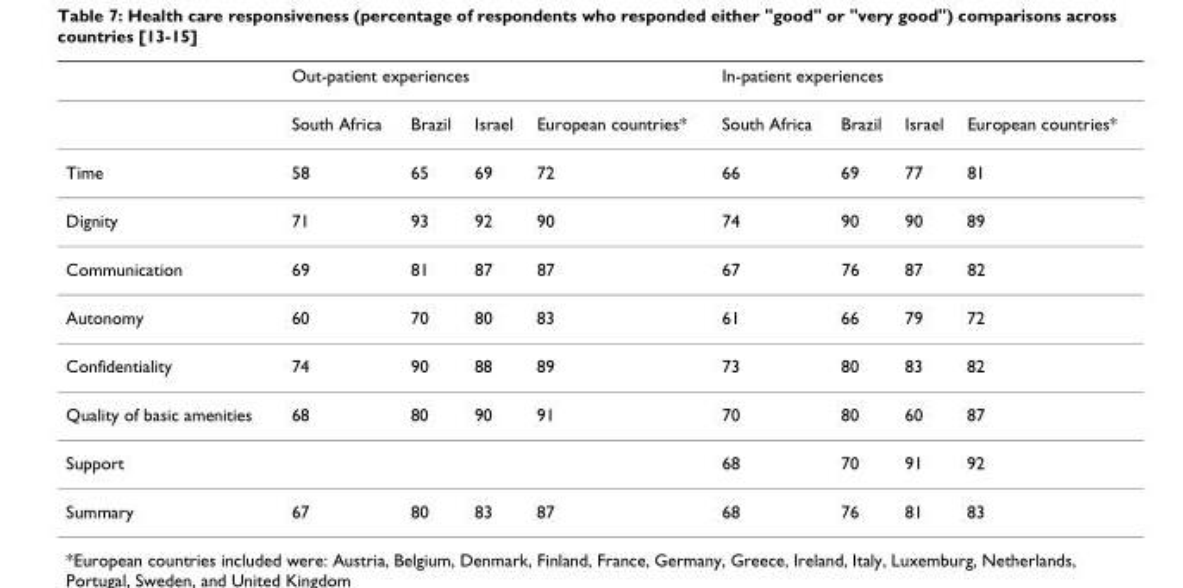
<table><thead><tr><td rowspan="2"></td><td colspan="4">Out-patient experiences</td><td colspan="4">In-patient experiences</td></tr><tr><td>South Africa</td><td>Brazil</td><td>Israel</td><td>European countries*</td><td>South Africa</td><td>Brazil</td><td>Israel</td><td>European countries*</td></tr></thead><tbody><tr><td>Time</td><td>58</td><td>65</td><td>69</td><td>72</td><td>66</td><td>69</td><td>77</td><td>81</td></tr><tr><td>Dignity</td><td>71</td><td>93</td><td>92</td><td>90</td><td>74</td><td>90</td><td>90</td><td>89</td></tr><tr><td>Communication</td><td>69</td><td>81</td><td>87</td><td>87</td><td>67</td><td>76</td><td>87</td><td>82</td></tr><tr><td>Autonomy</td><td>60</td><td>70</td><td>80</td><td>83</td><td>61</td><td>66</td><td>79</td><td>72</td></tr><tr><td>Confidentiality</td><td>74</td><td>90</td><td>88</td><td>89</td><td>73</td><td>80</td><td>83</td><td>82</td></tr><tr><td>Quality of basic amenities</td><td>68</td><td>80</td><td>90</td><td>91</td><td>70</td><td>80</td><td>60</td><td>87</td></tr><tr><td>Support</td><td></td><td></td><td></td><td></td><td>68</td><td>70</td><td>91</td><td>92</td></tr><tr><td>Summary</td><td>67</td><td>80</td><td>83</td><td>87</td><td>68</td><td>76</td><td>81</td><td>83</td></tr></tbody></table>